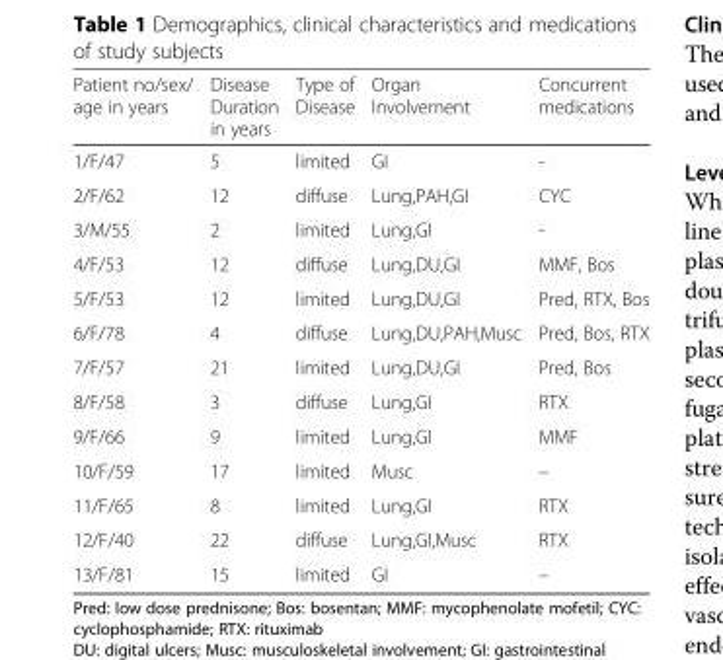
<table><thead><tr><td>Patient no/sex/ age in years</td><td>Disease Duration in years</td><td>Type of Disease</td><td>Organ Involvement</td><td>Concurrent medications</td></tr></thead><tbody><tr><td>1/F/47</td><td>5</td><td>limited</td><td>GI</td><td>-</td></tr><tr><td>2/F/62</td><td>12</td><td>diffuse</td><td>Lung,PAH,GI</td><td>CYC</td></tr><tr><td>3/M/55</td><td>2</td><td>limited</td><td>Lung,GI</td><td>-</td></tr><tr><td>4/F/53</td><td>12</td><td>diffuse</td><td>Lung,DU,GI</td><td>MMF, Bos</td></tr><tr><td>5/F/53</td><td>12</td><td>limited</td><td>Lung,DU,GI</td><td>Pred, RTX, Bos</td></tr><tr><td>6/F/78</td><td>4</td><td>diffuse</td><td>Lung,DU,PAH,Musc</td><td>Pred, Bos, RTX</td></tr><tr><td>7/F/57</td><td>21</td><td>limited</td><td>Lung,DU,GI</td><td>Pred, Bos</td></tr><tr><td>8/F/58</td><td>3</td><td>diffuse</td><td>Lung,GI</td><td>RTX</td></tr><tr><td>9/F/66</td><td>9</td><td>limited</td><td>Lung,GI</td><td>MMF</td></tr><tr><td>10/F/59</td><td>17</td><td>limited</td><td>Musc</td><td>–</td></tr><tr><td>11/F/65</td><td>8</td><td>limited</td><td>Lung,GI</td><td>RTX</td></tr><tr><td>12/F/40</td><td>22</td><td>diffuse</td><td>Lung,GI,Musc</td><td>RTX</td></tr><tr><td>13/F/81</td><td>15</td><td>limited</td><td>GI</td><td>–</td></tr></tbody></table>